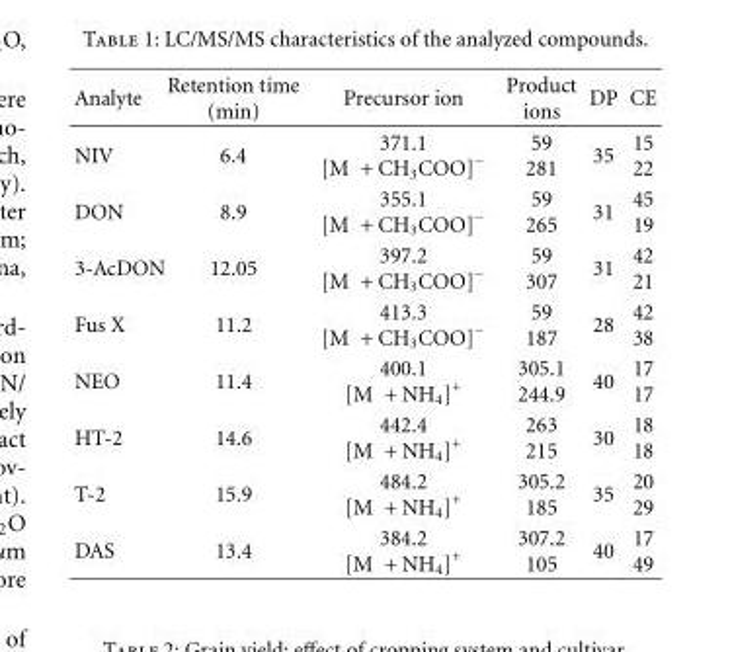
<table><thead><tr><td>Analyte</td><td>Retention time (min)</td><td>Precursor ion</td><td>Product ions</td><td>DP</td><td>CE</td></tr></thead><tbody><tr><td>NIV</td><td>6.4</td><td>371.1 [M + CH<sub>3</sub>COO]<sup>−</sup></td><td>59 281</td><td>35</td><td>15 22</td></tr><tr><td>DON</td><td>8.9</td><td>355.1 [M + CH<sub>3</sub>COO]<sup>−</sup></td><td>59 265</td><td>31</td><td>45 19</td></tr><tr><td>3-AcDON</td><td>12.05</td><td>397.2 [M + CH<sub>3</sub>COO]<sup>−</sup></td><td>59 307</td><td>31</td><td>42 21</td></tr><tr><td>Fus X</td><td>11.2</td><td>413.3 [M + CH<sub>3</sub>COO]<sup>−</sup></td><td>59 187</td><td>28</td><td>42 38</td></tr><tr><td>NEO</td><td>11.4</td><td>400.1 [M + NH<sub>4</sub>]<sup>+</sup></td><td>305.1 244.9</td><td>40</td><td>17 17</td></tr><tr><td>HT-2</td><td>14.6</td><td>442.4 [M + NH<sub>4</sub>]<sup>+</sup></td><td>263 215</td><td>30</td><td>18 18</td></tr><tr><td>T-2</td><td>15.9</td><td>484.2 [M + NH<sub>4</sub>]<sup>+</sup></td><td>305.2 185</td><td>35</td><td>20 29</td></tr><tr><td>DAS</td><td>13.4</td><td>384.2 [M + NH<sub>4</sub>]<sup>+</sup></td><td>307.2 105</td><td>40</td><td>17 49</td></tr></tbody></table>